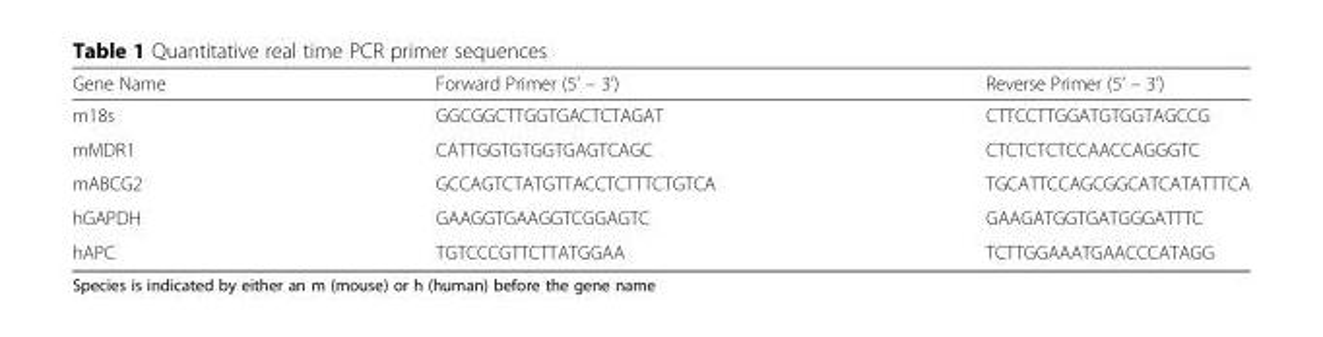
<table><thead><tr><td>Gene Name</td><td>Forward Primer (5’ – 3’)</td><td>Reverse Primer (5’ – 3’)</td></tr></thead><tbody><tr><td>m18s</td><td>GGCGGCTTGGTGACTCTAGAT</td><td>CTTCCTTGGATGTGGTAGCCG</td></tr><tr><td>mMDR1</td><td>CATTGGTGTGGTGAGTCAGC</td><td>CTCTCTCTCCAACCAGGGTC</td></tr><tr><td>mABCG2</td><td>GCCAGTCTATGTTACCTCTTTCTGTCA</td><td>TGCATTCCAGCGGCATCATATTTCA</td></tr><tr><td>hGAPDH</td><td>GAAGGTGAAGGTCGGAGTC</td><td>GAAGATGGTGATGGGATTTC</td></tr><tr><td>hAPC</td><td>TGTCCCGTTCTTATGGAA</td><td>TCTTGGAAATGAACCCATAGG</td></tr></tbody></table>